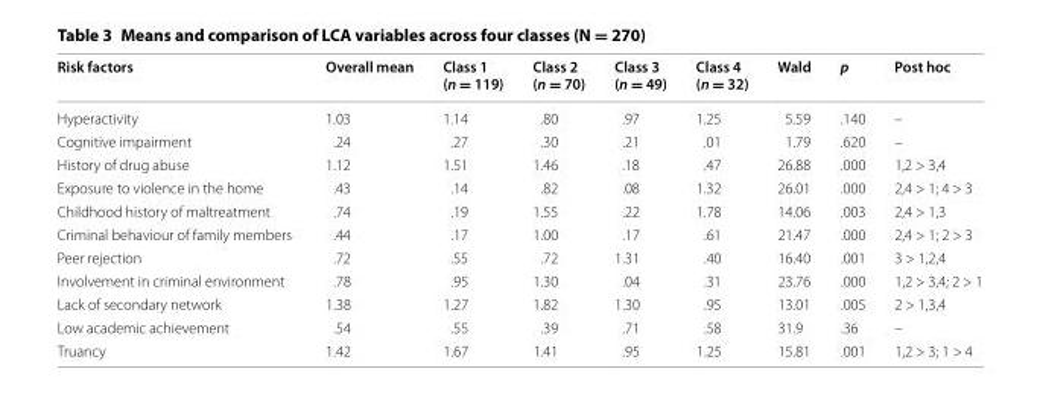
<table><thead><tr><td>Risk factors</td><td>Overall mean</td><td>Class 1 (n = 119)</td><td>Class 2 (n = 70)</td><td>Class 3 (n = 49)</td><td>Class 4 (n = 32)</td><td>Wald</td><td>p</td><td>Post hoc</td></tr></thead><tbody><tr><td>Hyperactivity</td><td>1.03</td><td>1.14</td><td>.80</td><td>.97</td><td>1.25</td><td>5.59</td><td>.140</td><td>–</td></tr><tr><td>Cognitive impairment</td><td>.24</td><td>.27</td><td>.30</td><td>.21</td><td>.01</td><td>1.79</td><td>.620</td><td>–</td></tr><tr><td>History of drug abuse</td><td>1.12</td><td>1.51</td><td>1.46</td><td>.18</td><td>.47</td><td>26.88</td><td>.000</td><td>1,2 &gt; 3,4</td></tr><tr><td>Exposure to violence in the home</td><td>.43</td><td>.14</td><td>.82</td><td>.08</td><td>1.32</td><td>26.01</td><td>.000</td><td>2,4 &gt; 1; 4 &gt; 3</td></tr><tr><td>Childhood history of maltreatment</td><td>.74</td><td>.19</td><td>1.55</td><td>.22</td><td>1.78</td><td>14.06</td><td>.003</td><td>2,4 &gt; 1,3</td></tr><tr><td>Criminal behaviour of family members</td><td>.44</td><td>.17</td><td>1.00</td><td>.17</td><td>.61</td><td>21.47</td><td>.000</td><td>2,4 &gt; 1; 2 &gt; 3</td></tr><tr><td>Peer rejection</td><td>.72</td><td>.55</td><td>.72</td><td>1.31</td><td>.40</td><td>16.40</td><td>.001</td><td>3 &gt; 1,2,4</td></tr><tr><td>Involvement in criminal environment</td><td>.78</td><td>.95</td><td>1.30</td><td>.04</td><td>.31</td><td>23.76</td><td>.000</td><td>1,2 &gt; 3,4; 2 &gt; 1</td></tr><tr><td>Lack of secondary network</td><td>1.38</td><td>1.27</td><td>1.82</td><td>1.30</td><td>.95</td><td>13.01</td><td>.005</td><td>2 &gt; 1,3,4</td></tr><tr><td>Low academic achievement</td><td>.54</td><td>.55</td><td>.39</td><td>.71</td><td>.58</td><td>31.9</td><td>.36</td><td>–</td></tr><tr><td>Truancy</td><td>1.42</td><td>1.67</td><td>1.41</td><td>.95</td><td>1.25</td><td>15.81</td><td>.001</td><td>1,2 &gt; 3; 1 &gt; 4</td></tr></tbody></table>